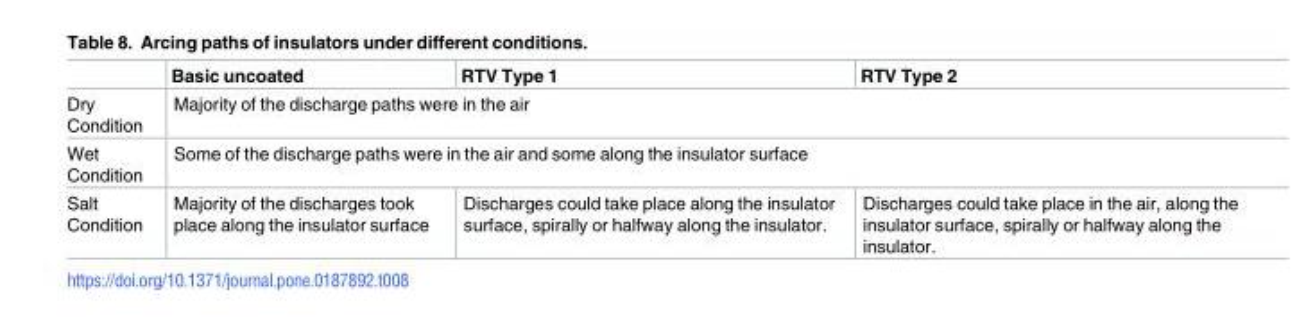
<table><thead><tr><td></td><td>Basic uncoated</td><td>RTV Type 1</td><td>RTV Type 2</td></tr></thead><tbody><tr><td>Dry Condition</td><td colspan="3">Majority of the discharge paths were in the air</td></tr><tr><td>Wet Condition</td><td colspan="3">Some of the discharge paths were in the air and some along the insulator surface</td></tr><tr><td>Salt Condition</td><td>Majority of the discharges took place along the insulator surface</td><td>Discharges could take place along the insulator surface, spirally or halfway along the insulator.</td><td>Discharges could take place in the air, along the insulator surface, spirally or halfway along the insulator.</td></tr></tbody></table>